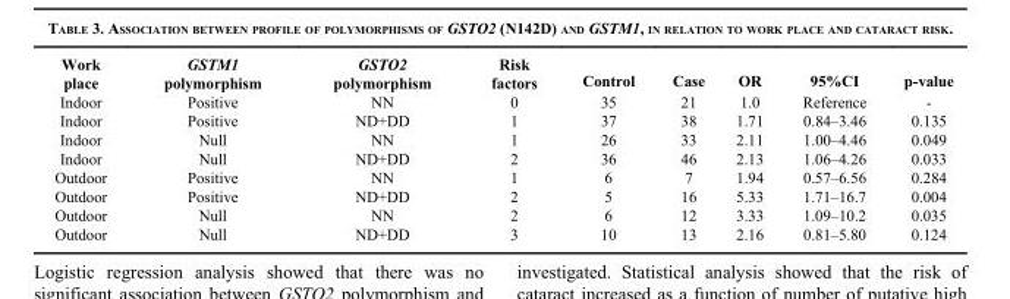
<table><thead><tr><td>Work place</td><td>GSTM1 polymorphism</td><td>GSTO2 polymorphism</td><td>Risk factors</td><td>Control</td><td>Case</td><td>OR</td><td>95%CI</td><td>p-value</td></tr></thead><tbody><tr><td>Indoor</td><td>Positive</td><td>NN</td><td>0</td><td>35</td><td>21</td><td>1.0</td><td>Reference</td><td>-</td></tr><tr><td>Indoor</td><td>Positive</td><td>ND+DD</td><td>1</td><td>37</td><td>38</td><td>1.71</td><td>0.84–3.46</td><td>0.135</td></tr><tr><td>Indoor</td><td>Null</td><td>NN</td><td>1</td><td>26</td><td>33</td><td>2.11</td><td>1.00–4.46</td><td>0.049</td></tr><tr><td>Indoor</td><td>Null</td><td>ND+DD</td><td>2</td><td>36</td><td>46</td><td>2.13</td><td>1.06–4.26</td><td>0.033</td></tr><tr><td>Outdoor</td><td>Positive</td><td>NN</td><td>1</td><td>6</td><td>7</td><td>1.94</td><td>0.57–6.56</td><td>0.284</td></tr><tr><td>Outdoor</td><td>Positive</td><td>ND+DD</td><td>2</td><td>5</td><td>16</td><td>5.33</td><td>1.71–16.7</td><td>0.004</td></tr><tr><td>Outdoor</td><td>Null</td><td>NN</td><td>2</td><td>6</td><td>12</td><td>3.33</td><td>1.09–10.2</td><td>0.035</td></tr><tr><td>Outdoor</td><td>Null</td><td>ND+DD</td><td>3</td><td>10</td><td>13</td><td>2.16</td><td>0.81–5.80</td><td>0.124</td></tr></tbody></table>